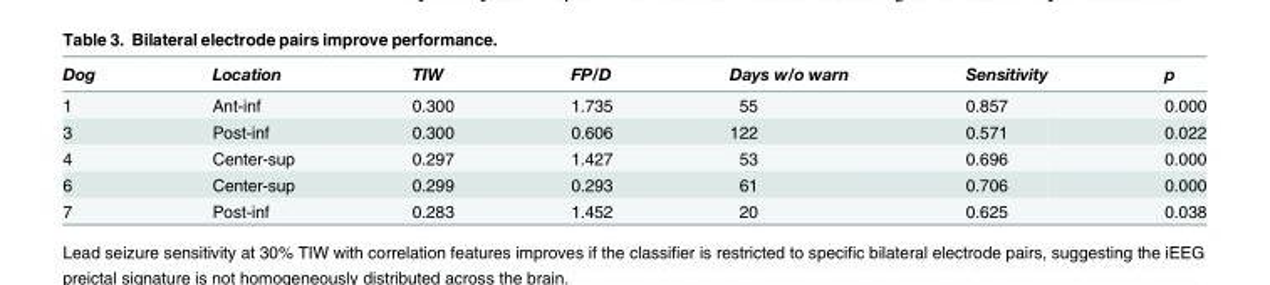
<table><thead><tr><td>Dog</td><td>Location</td><td>TIW</td><td>FP/D</td><td>Days w/o warn</td><td>Sensitivity</td><td>p</td></tr></thead><tbody><tr><td>1</td><td>Ant-inf</td><td>0.300</td><td>1.735</td><td>55</td><td>0.857</td><td>0.000</td></tr><tr><td>3</td><td>Post-inf</td><td>0.300</td><td>0.606</td><td>122</td><td>0.571</td><td>0.022</td></tr><tr><td>4</td><td>Center-sup</td><td>0.297</td><td>1.427</td><td>53</td><td>0.696</td><td>0.000</td></tr><tr><td>6</td><td>Center-sup</td><td>0.299</td><td>0.293</td><td>61</td><td>0.706</td><td>0.000</td></tr><tr><td>7</td><td>Post-inf</td><td>0.283</td><td>1.452</td><td>20</td><td>0.625</td><td>0.038</td></tr></tbody></table>